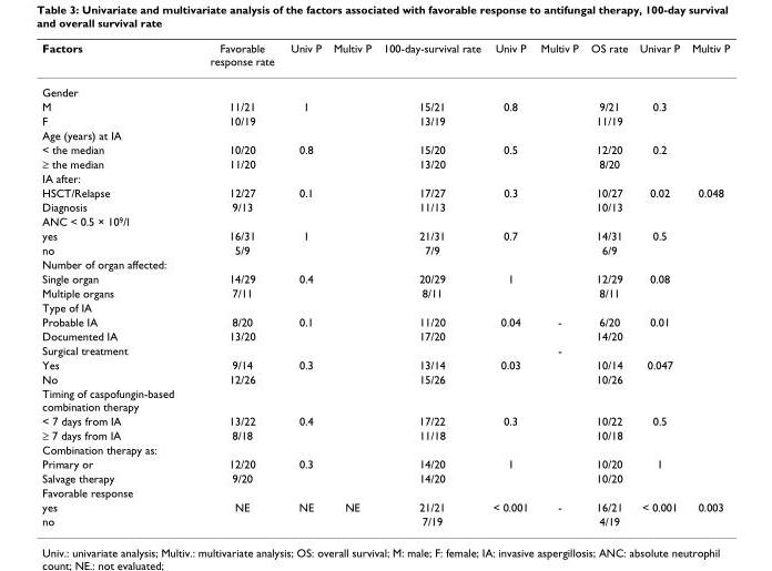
<table><thead><tr><td>Factors</td><td>Favorable response rate</td><td>Univ P</td><td>Multiv P</td><td>100-day-survival rate</td><td>Univ P</td><td>Multiv P</td><td>OS rate</td><td>Univar P</td><td>Multiv P</td></tr></thead><tbody><tr><td colspan="10">Gender</td></tr><tr><td>M</td><td>11/21</td><td>1</td><td></td><td>15/21</td><td>0.8</td><td></td><td>9/21</td><td>0.3</td><td></td></tr><tr><td>F</td><td>10/19</td><td></td><td></td><td>13/19</td><td></td><td></td><td>11/19</td><td></td><td></td></tr><tr><td colspan="10">Age (years) at IA</td></tr><tr><td>&lt; the median</td><td>10/20</td><td>0.8</td><td></td><td>15/20</td><td>0.5</td><td></td><td>12/20</td><td>0.2</td><td></td></tr><tr><td>≥ the median</td><td>11/20</td><td></td><td></td><td>13/20</td><td></td><td></td><td>8/20</td><td></td><td></td></tr><tr><td colspan="10">IA after:</td></tr><tr><td>HSCT/Relapse</td><td>12/27</td><td>0.1</td><td></td><td>17/27</td><td>0.3</td><td></td><td>10/27</td><td>0.02</td><td>0.048</td></tr><tr><td>Diagnosis</td><td>9/13</td><td></td><td></td><td>11/13</td><td></td><td></td><td>10/13</td><td></td><td></td></tr><tr><td colspan="10">ANC &lt; 0.5 × 10<sup>9</sup>/l</td></tr><tr><td>yes</td><td>16/31</td><td>1</td><td></td><td>21/31</td><td>0.7</td><td></td><td>14/31</td><td>0.5</td><td></td></tr><tr><td>no</td><td>5/9</td><td></td><td></td><td>7/9</td><td></td><td></td><td>6/9</td><td></td><td></td></tr><tr><td colspan="10">Number of organ affected:</td></tr><tr><td>Single organ</td><td>14/29</td><td>0.4</td><td></td><td>20/29</td><td>1</td><td></td><td>12/29</td><td>0.08</td><td></td></tr><tr><td>Multiple organs</td><td>7/11</td><td></td><td></td><td>8/11</td><td></td><td></td><td>8/11</td><td></td><td></td></tr><tr><td colspan="10">Type of IA</td></tr><tr><td>Probable IA</td><td>8/20</td><td>0.1</td><td></td><td>11/20</td><td>0.04</td><td>-</td><td>6/20</td><td>0.01</td><td></td></tr><tr><td>Documented IA</td><td>13/20</td><td></td><td></td><td>17/20</td><td></td><td></td><td>14/20</td><td></td><td></td></tr><tr><td>Surgical treatment</td><td></td><td></td><td></td><td></td><td></td><td>-</td><td></td><td></td><td></td></tr><tr><td>Yes</td><td>9/14</td><td>0.3</td><td></td><td>13/14</td><td>0.03</td><td></td><td>10/14</td><td>0.047</td><td></td></tr><tr><td>No</td><td>12/26</td><td></td><td></td><td>15/26</td><td></td><td></td><td>10/26</td><td></td><td></td></tr><tr><td colspan="10">Timing of caspofungin-based combination therapy</td></tr><tr><td>&lt; 7 days from IA</td><td>13/22</td><td>0.4</td><td></td><td>17/22</td><td>0.3</td><td></td><td>10/22</td><td>0.5</td><td></td></tr><tr><td>≥ 7 days from IA</td><td>8/18</td><td></td><td></td><td>11/18</td><td></td><td></td><td>10/18</td><td></td><td></td></tr><tr><td colspan="10">Combination therapy as:</td></tr><tr><td>Primary or</td><td>12/20</td><td>0.3</td><td></td><td>14/20</td><td>1</td><td></td><td>10/20</td><td>1</td><td></td></tr><tr><td>Salvage therapy</td><td>9/20</td><td></td><td></td><td>14/20</td><td></td><td></td><td>10/20</td><td></td><td></td></tr><tr><td colspan="10">Favorable response</td></tr><tr><td>yes</td><td>NE</td><td>NE</td><td>NE</td><td>21/21</td><td>&lt; 0.001</td><td>-</td><td>16/21</td><td>&lt; 0.001</td><td>0.003</td></tr><tr><td>no</td><td></td><td></td><td></td><td>7/19</td><td></td><td></td><td>4/19</td><td></td><td></td></tr></tbody></table>